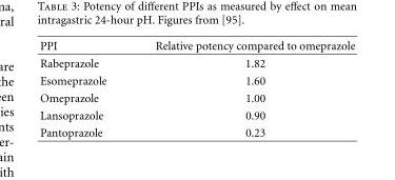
<table><thead><tr><td>PPI</td><td>Relative potency compared to omeprazole</td></tr></thead><tbody><tr><td>Rabeprazole</td><td>1.82</td></tr><tr><td>Esomeprazole</td><td>1.60</td></tr><tr><td>Omeprazole</td><td>1.00</td></tr><tr><td>Lansoprazole</td><td>0.90</td></tr><tr><td>Pantoprazole</td><td>0.23</td></tr></tbody></table>